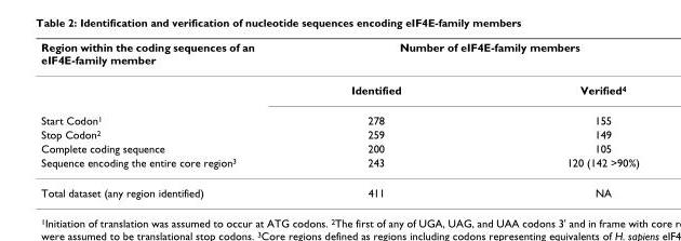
<table><thead><tr><td rowspan="2">Region within the coding sequences of an eIF4E-family member</td><td colspan="2">Number of eIF4E-family members</td></tr><tr><td>Identified</td><td>Verified<sup>4</sup></td></tr></thead><tbody><tr><td>Start Codon<sup>1</sup></td><td>278</td><td>155</td></tr><tr><td>Stop Codon<sup>2</sup></td><td>259</td><td>149</td></tr><tr><td>Complete coding sequence</td><td>200</td><td>105</td></tr><tr><td>Sequence encoding the entire core region<sup>3</sup></td><td>243</td><td>120 (142 &gt;90%)</td></tr><tr><td>Total dataset (any region identified)</td><td>411</td><td>NA</td></tr></tbody></table>